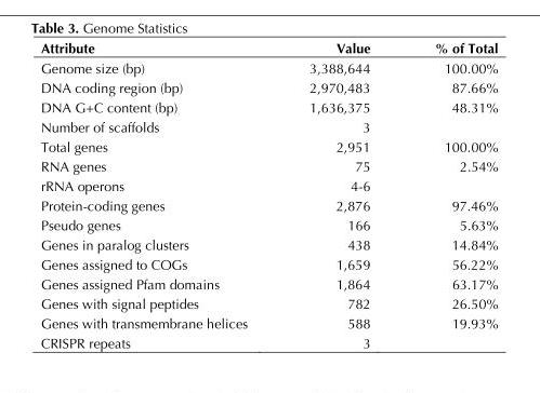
<table><thead><tr><td>Attribute</td><td>Value</td><td>% of Total</td></tr></thead><tbody><tr><td>Genome size (bp)</td><td>3,388,644</td><td>100.00%</td></tr><tr><td>DNA coding region (bp)</td><td>2,970,483</td><td>87.66%</td></tr><tr><td>DNA G+C content (bp)</td><td>1,636,375</td><td>48.31%</td></tr><tr><td>Number of scaffolds</td><td>3</td><td></td></tr><tr><td>Total genes</td><td>2,951</td><td>100.00%</td></tr><tr><td>RNA genes</td><td>75</td><td>2.54%</td></tr><tr><td>rRNA operons</td><td>4-6</td><td></td></tr><tr><td>Protein-coding genes</td><td>2,876</td><td>97.46%</td></tr><tr><td>Pseudo genes</td><td>166</td><td>5.63%</td></tr><tr><td>Genes in paralog clusters</td><td>438</td><td>14.84%</td></tr><tr><td>Genes assigned to COGs</td><td>1,659</td><td>56.22%</td></tr><tr><td>Genes assigned Pfam domains</td><td>1,864</td><td>63.17%</td></tr><tr><td>Genes with signal peptides</td><td>782</td><td>26.50%</td></tr><tr><td>Genes with transmembrane helices</td><td>588</td><td>19.93%</td></tr><tr><td>CRISPR repeats</td><td>3</td><td></td></tr></tbody></table>